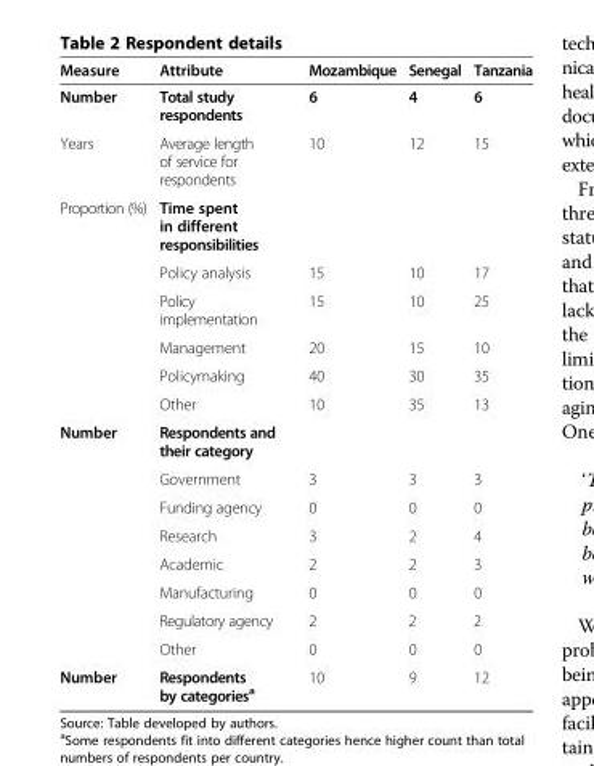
<table><thead><tr><td>Measure</td><td>Attribute</td><td>Mozambique</td><td>Senegal</td><td>Tanzania</td></tr></thead><tbody><tr><td>Number</td><td>Total study respondents</td><td>6</td><td>4</td><td>6</td></tr><tr><td>Years</td><td>Average length of service for respondents</td><td>10</td><td>12</td><td>15</td></tr><tr><td rowspan="6">Proportion (%)</td><td>Time spent in different responsibilities</td><td></td><td></td><td></td></tr><tr><td>Policy analysis</td><td>15</td><td>10</td><td>17</td></tr><tr><td>Policy implementation</td><td>15</td><td>10</td><td>25</td></tr><tr><td>Management</td><td>20</td><td>15</td><td>10</td></tr><tr><td>Policymaking</td><td>40</td><td>30</td><td>35</td></tr><tr><td>Other</td><td>10</td><td>35</td><td>13</td></tr><tr><td rowspan="8">Number</td><td>Respondents and their category</td><td></td><td></td><td></td></tr><tr><td>Government</td><td>3</td><td>3</td><td>3</td></tr><tr><td>Funding agency</td><td>0</td><td>0</td><td>0</td></tr><tr><td>Research</td><td>3</td><td>2</td><td>4</td></tr><tr><td>Academic</td><td>2</td><td>2</td><td>3</td></tr><tr><td>Manufacturing</td><td>0</td><td>0</td><td>0</td></tr><tr><td>Regulatory agency</td><td>2</td><td>2</td><td>2</td></tr><tr><td>Other</td><td>0</td><td>0</td><td>0</td></tr><tr><td>Number</td><td>Respondents by categories<sup>a</sup></td><td>10</td><td>9</td><td>12</td></tr></tbody></table>